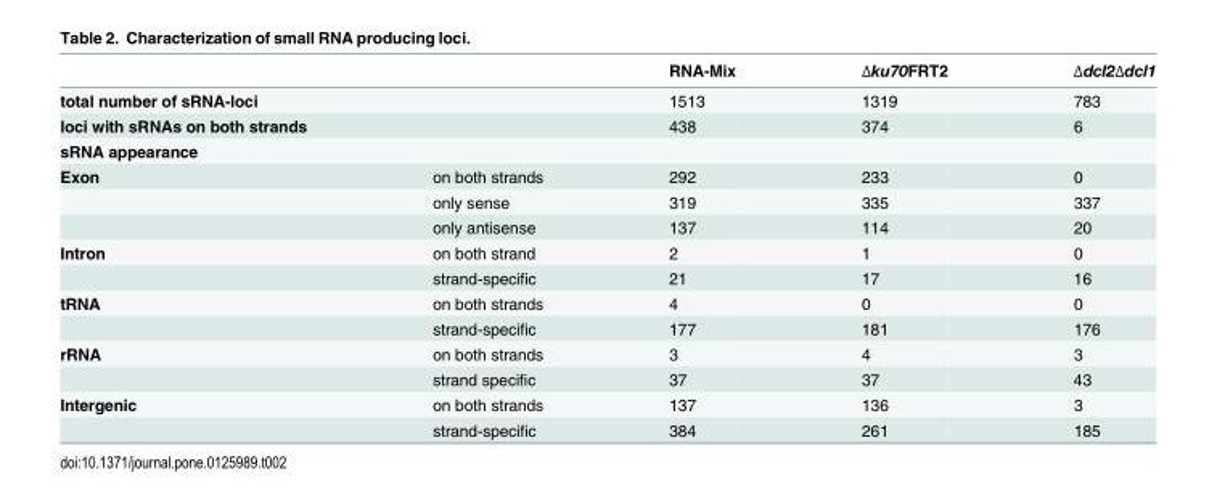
<table><thead><tr><td></td><td></td><td>RNA-Mix</td><td>Δku70FRT2</td><td>Δdcl2Δdcl1</td></tr></thead><tbody><tr><td>total number of sRNA-loci</td><td></td><td>1513</td><td>1319</td><td>783</td></tr><tr><td>loci with sRNAs on both strands</td><td></td><td>438</td><td>374</td><td>6</td></tr><tr><td colspan="5">sRNA appearance</td></tr><tr><td rowspan="3">Exon</td><td>on both strands</td><td>292</td><td>233</td><td>0</td></tr><tr><td>only sense</td><td>319</td><td>335</td><td>337</td></tr><tr><td>only antisense</td><td>137</td><td>114</td><td>20</td></tr><tr><td rowspan="2">Intron</td><td>on both strand</td><td>2</td><td>1</td><td>0</td></tr><tr><td>strand-specific</td><td>21</td><td>17</td><td>16</td></tr><tr><td rowspan="2">tRNA</td><td>on both strands</td><td>4</td><td>0</td><td>0</td></tr><tr><td>strand-specific</td><td>177</td><td>181</td><td>176</td></tr><tr><td rowspan="2">rRNA</td><td>on both strands</td><td>3</td><td>4</td><td>3</td></tr><tr><td>strand specific</td><td>37</td><td>37</td><td>43</td></tr><tr><td rowspan="2">Intergenic</td><td>on both strands</td><td>137</td><td>136</td><td>3</td></tr><tr><td>strand-specific</td><td>384</td><td>261</td><td>185</td></tr></tbody></table>